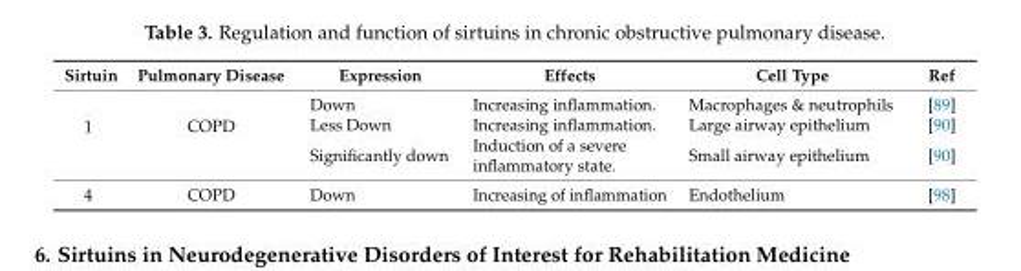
<table><thead><tr><td>Sirtuin</td><td>Pulmonary Disease</td><td>Expression</td><td>Effects</td><td>Cell Type</td><td>Ref</td></tr></thead><tbody><tr><td rowspan="3">1</td><td rowspan="3">COPD</td><td>Down</td><td>Increasing inflammation.</td><td>Macrophages &amp; neutrophils</td><td>[89]</td></tr><tr><td>Less Down</td><td>Increasing inflammation.</td><td>Large airway epithelium</td><td>[90]</td></tr><tr><td>Significantly down</td><td>Induction of a severe inflammatory state.</td><td>Small airway epithelium</td><td>[90]</td></tr><tr><td>4</td><td>COPD</td><td>Down</td><td>Increasing of inflammation</td><td>Endothelium</td><td>[98]</td></tr></tbody></table>